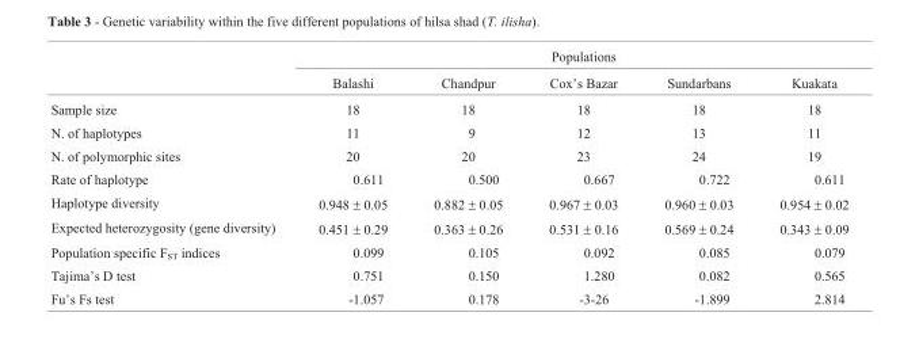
<table><thead><tr><td rowspan="2"></td><td colspan="5">Populations</td></tr><tr><td>Balashi</td><td>Chandpur</td><td>Cox’s Bazar</td><td>Sundarbans</td><td>Kuakata</td></tr></thead><tbody><tr><td>Sample size</td><td>18</td><td>18</td><td>18</td><td>18</td><td>18</td></tr><tr><td>N. of haplotypes</td><td>11</td><td>9</td><td>12</td><td>13</td><td>11</td></tr><tr><td>N. of polymorphic sites</td><td>20</td><td>20</td><td>23</td><td>24</td><td>19</td></tr><tr><td>Rate of haplotype</td><td>0.611</td><td>0.500</td><td>0.667</td><td>0.722</td><td>0.611</td></tr><tr><td>Haplotype diversity</td><td>0.948 ± 0.05</td><td>0.882 ± 0.05</td><td>0.967 ± 0.03</td><td>0.960 ± 0.03</td><td>0.954 ± 0.02</td></tr><tr><td>Expected heterozygosity (gene diversity)</td><td>0.451 ± 0.29</td><td>0.363 ± 0.26</td><td>0.531 ± 0.16</td><td>0.569 ± 0.24</td><td>0.343 ± 0.09</td></tr><tr><td>Population specific F<sub>ST</sub> indices</td><td>0.099</td><td>0.105</td><td>0.092</td><td>0.085</td><td>0.079</td></tr><tr><td>Tajima’s D test</td><td>0.751</td><td>0.150</td><td>1.280</td><td>0.082</td><td>0.565</td></tr><tr><td>Fu’s Fs test</td><td>-1.057</td><td>0.178</td><td>-3-26</td><td>-1.899</td><td>2.814</td></tr></tbody></table>